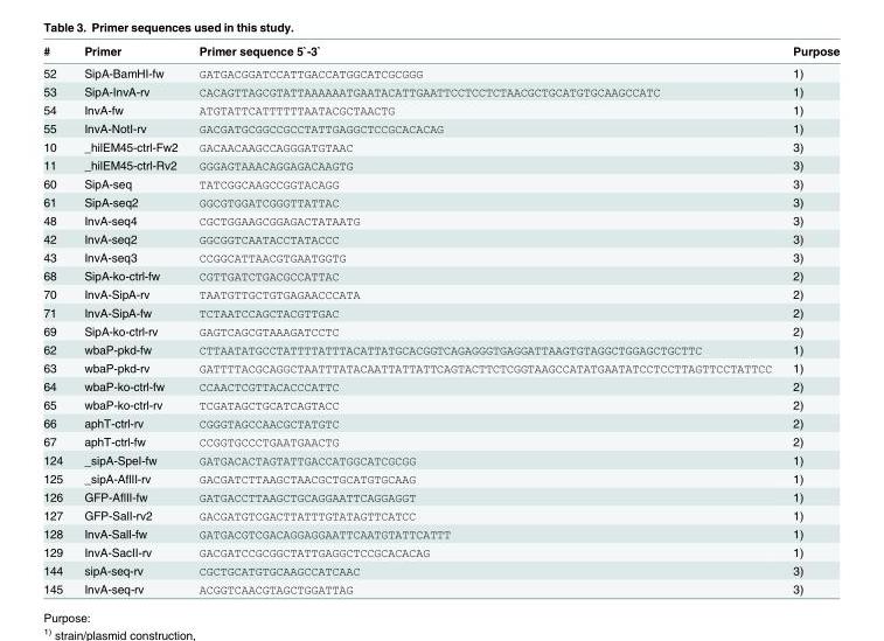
<table><thead><tr><td>#</td><td>Primer</td><td>Primer sequence 5`-3`</td><td>Purpose</td></tr></thead><tbody><tr><td>52</td><td>SipA-BamHI-fw</td><td>GATGACGGATCCATTGACCATGGCATCGCGGG</td><td>1)</td></tr><tr><td>53</td><td>SipA-InvA-rv</td><td>CACAGTTAGCGTATTAAAAAATGAATACATTGAATTCCTCCTCTAACGCTGCATGTGCAAGCCATC</td><td>1)</td></tr><tr><td>54</td><td>InvA-fw</td><td>ATGTATTCATTTTTTAATACGCTAACTG</td><td>1)</td></tr><tr><td>55</td><td>InvA-NotI-rv</td><td>GACGATGCGGCCGCCTATTGAGGCTCCGCACACAG</td><td>1)</td></tr><tr><td>10</td><td>_hilEM45-ctrl-Fw2</td><td>GACAACAAGCCAGGGATGTAAC</td><td>3)</td></tr><tr><td>11</td><td>_hilEM45-ctrl-Rv2</td><td>GGGAGTAAACAGGAGACAAGTG</td><td>3)</td></tr><tr><td>60</td><td>SipA-seq</td><td>TATCGGCAAGCCGGTACAGG</td><td>3)</td></tr><tr><td>61</td><td>SipA-seq2</td><td>GGCGTGGATCGGGTTATTAC</td><td>3)</td></tr><tr><td>48</td><td>InvA-seq4</td><td>CGCTGGAAGCGGAGACTATAATG</td><td>3)</td></tr><tr><td>42</td><td>InvA-seq2</td><td>GGCGGTCAATACCTATACCC</td><td>3)</td></tr><tr><td>43</td><td>InvA-seq3</td><td>CCGGCATTAACGTGAATGGTG</td><td>3)</td></tr><tr><td>68</td><td>SipA-ko-ctrl-fw</td><td>CGTTGATCTGACGCCATTAC</td><td>2)</td></tr><tr><td>70</td><td>InvA-SipA-rv</td><td>TAATGTTGCTGTGAGAACCCATA</td><td>2)</td></tr><tr><td>71</td><td>InvA-SipA-fw</td><td>TCTAATCCAGCTACGTTGAC</td><td>2)</td></tr><tr><td>69</td><td>SipA-ko-ctrl-rv</td><td>GAGTCAGCGTAAAGATCCTC</td><td>2)</td></tr><tr><td>62</td><td>wbaP-pkd-fw</td><td>CTTAATATGCCTATTTTATTTACATTATGCACGGTCAGAGGGTGAGGATTAAGTGTAGGCTGGAGCTGCTTC</td><td>1)</td></tr><tr><td>63</td><td>wbaP-pkd-rv</td><td>GATTTTACGCAGGCTAATTTATACAATTATTATTCAGTACTTCTCGGTAAGCCATATGAATATCCTCCTTAGTTCCTATTCC</td><td>1)</td></tr><tr><td>64</td><td>wbaP-ko-ctrl-fw</td><td>CCAACTCGTTACACCCATTC</td><td>2)</td></tr><tr><td>65</td><td>wbaP-ko-ctrl-rv</td><td>TCGATAGCTGCATCAGTACC</td><td>2)</td></tr><tr><td>66</td><td>aphT-ctrl-rv</td><td>CGGGTAGCCAACGCTATGTC</td><td>2)</td></tr><tr><td>67</td><td>aphT-ctrl-fw</td><td>CCGGTGCCCTGAATGAACTG</td><td>2)</td></tr><tr><td>124</td><td>_sipA-SpeI-fw</td><td>GATGACACTAGTATTGACCATGGCATCGCGG</td><td>1)</td></tr><tr><td>125</td><td>_sipA-AflII-rv</td><td>GACGATCTTAAGCTAACGCTGCATGTGCAAG</td><td>1)</td></tr><tr><td>126</td><td>GFP-AflII-fw</td><td>GATGACCTTAAGCTGCAGGAATTCAGGAGGT</td><td>1)</td></tr><tr><td>127</td><td>GFP-SalI-rv2</td><td>GACGATGTCGACTTATTTGTATAGTTCATCC</td><td>1)</td></tr><tr><td>128</td><td>InvA-SalI-fw</td><td>GATGACGTCGACAGGAGGAATTCAATGTATTCATTT</td><td>1)</td></tr><tr><td>129</td><td>InvA-SacII-rv</td><td>GACGATCCGCGGCTATTGAGGCTCCGCACACAG</td><td>1)</td></tr><tr><td>144</td><td>sipA-seq-rv</td><td>CGCTGCATGTGCAAGCCATCAAC</td><td>3)</td></tr><tr><td>145</td><td>InvA-seq-rv</td><td>ACGGTCAACGTAGCTGGATTAG</td><td>3)</td></tr></tbody></table>